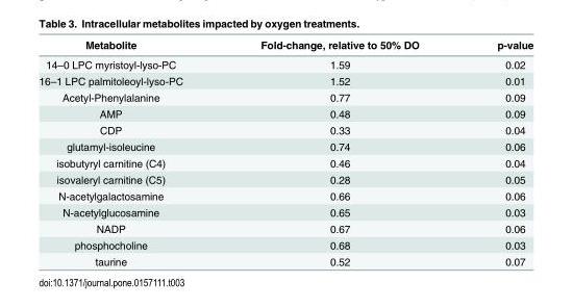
<table><thead><tr><td>Metabolite</td><td>Fold-change, relative to 50% DO</td><td>p-value</td></tr></thead><tbody><tr><td>14–0 LPC myristoyl-lyso-PC</td><td>1.59</td><td>0.02</td></tr><tr><td>16–1 LPC palmitoleoyl-lyso-PC</td><td>1.52</td><td>0.01</td></tr><tr><td>Acetyl-Phenylalanine</td><td>0.77</td><td>0.09</td></tr><tr><td>AMP</td><td>0.48</td><td>0.09</td></tr><tr><td>CDP</td><td>0.33</td><td>0.04</td></tr><tr><td>glutamyl-isoleucine</td><td>0.74</td><td>0.06</td></tr><tr><td>isobutyryl carnitine (C4)</td><td>0.46</td><td>0.04</td></tr><tr><td>isovaleryl carnitine (C5)</td><td>0.28</td><td>0.05</td></tr><tr><td>N-acetylgalactosamine</td><td>0.66</td><td>0.06</td></tr><tr><td>N-acetylglucosamine</td><td>0.65</td><td>0.03</td></tr><tr><td>NADP</td><td>0.67</td><td>0.06</td></tr><tr><td>phosphocholine</td><td>0.68</td><td>0.03</td></tr><tr><td>taurine</td><td>0.52</td><td>0.07</td></tr></tbody></table>